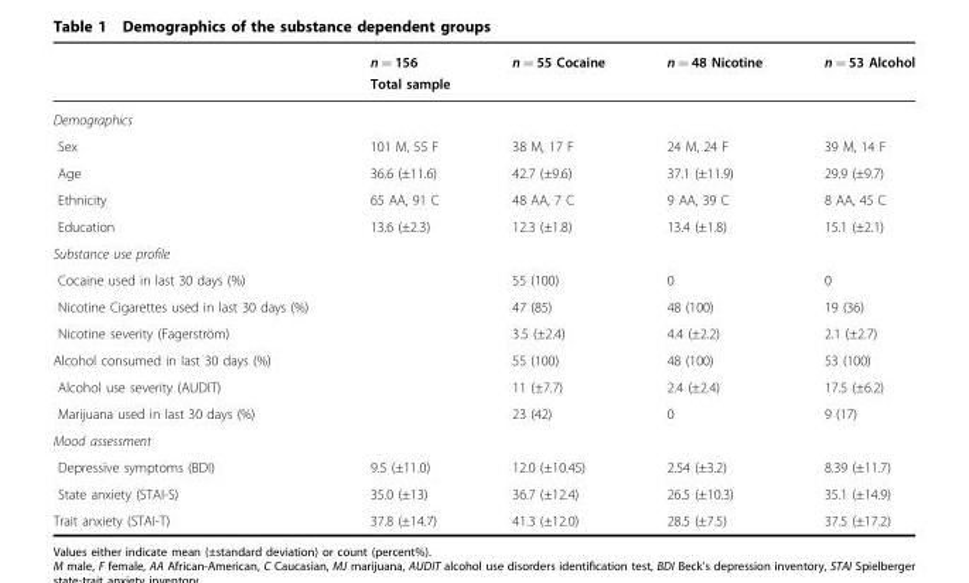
<table><thead><tr><td></td><td>n = 156 Total sample</td><td>n = 55 Cocaine</td><td>n = 48 Nicotine</td><td>n = 53 Alcohol</td></tr></thead><tbody><tr><td colspan="5">Demographics</td></tr><tr><td>Sex</td><td>101 M, 55 F</td><td>38 M, 17 F</td><td>24 M, 24 F</td><td>39 M, 14 F</td></tr><tr><td>Age</td><td>36.6 (±11.6)</td><td>42.7 (±9.6)</td><td>37.1 (±11.9)</td><td>29.9 (±9.7)</td></tr><tr><td>Ethnicity</td><td>65 AA, 91 C</td><td>48 AA, 7 C</td><td>9 AA, 39 C</td><td>8 AA, 45 C</td></tr><tr><td>Education</td><td>13.6 (±2.3)</td><td>12.3 (±1.8)</td><td>13.4 (±1.8)</td><td>15.1 (±2.1)</td></tr><tr><td colspan="5">Substance use profile</td></tr><tr><td>Cocaine used in last 30 days (%)</td><td></td><td>55 (100)</td><td>0</td><td>0</td></tr><tr><td>Nicotine Cigarettes used in last 30 days (%)</td><td></td><td>47 (85)</td><td>48 (100)</td><td>19 (36)</td></tr><tr><td>Nicotine severity (Fagerström)</td><td></td><td>3.5 (±2.4)</td><td>4.4 (±2.2)</td><td>2.1 (±2.7)</td></tr><tr><td>Alcohol consumed in last 30 days (%)</td><td></td><td>55 (100)</td><td>48 (100)</td><td>53 (100)</td></tr><tr><td>Alcohol use severity (AUDIT)</td><td></td><td>11 (±7.7)</td><td>2.4 (±2.4)</td><td>17.5 (±6.2)</td></tr><tr><td>Marijuana used in last 30 days (%)</td><td></td><td>23 (42)</td><td>0</td><td>9 (17)</td></tr><tr><td colspan="5">Mood assessment</td></tr><tr><td>Depressive symptoms (BDI)</td><td>9.5 (±11.0)</td><td>12.0 (±10.45)</td><td>2.54 (±3.2)</td><td>8.39 (±11.7)</td></tr><tr><td>State anxiety (STAI-S)</td><td>35.0 (±13)</td><td>36.7 (±12.4)</td><td>26.5 (±10.3)</td><td>35.1 (±14.9)</td></tr><tr><td>Trait anxiety (STAI-T)</td><td>37.8 (±14.7)</td><td>41.3 (±12.0)</td><td>28.5 (±7.5)</td><td>37.5 (±17.2)</td></tr></tbody></table>